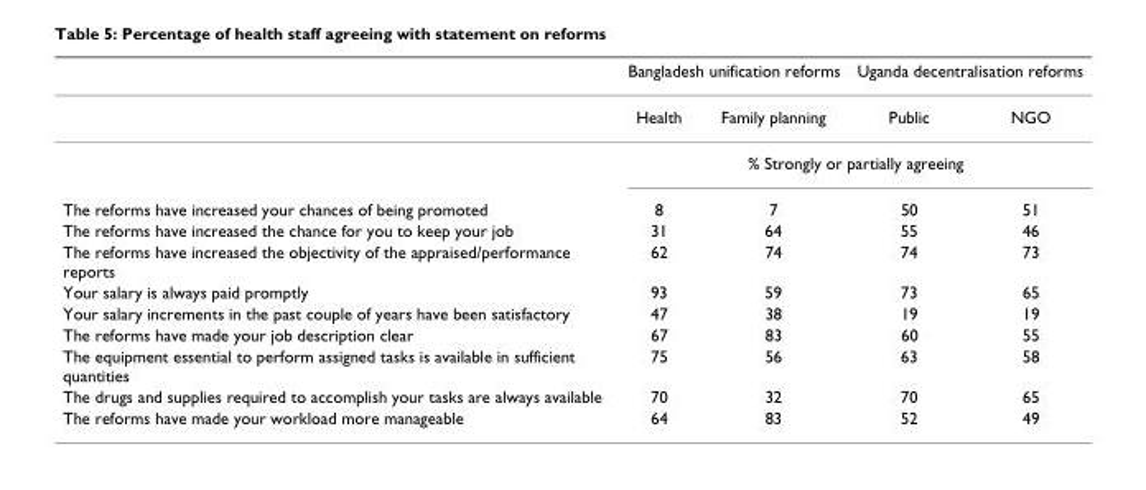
<table><thead><tr><td rowspan="2"></td><td colspan="2">Bangladesh unification reforms</td><td colspan="2">Uganda decentralisation reforms</td></tr><tr><td>Health</td><td>Family planning</td><td>Public</td><td>NGO</td></tr></thead><tbody><tr><td></td><td colspan="4">% Strongly or partially agreeing</td></tr><tr><td>The reforms have increased your chances of being promoted</td><td>8</td><td>7</td><td>50</td><td>51</td></tr><tr><td>The reforms have increased the chance for you to keep your job</td><td>31</td><td>64</td><td>55</td><td>46</td></tr><tr><td>The reforms have increased the objectivity of the appraised/performance reports</td><td>62</td><td>74</td><td>74</td><td>73</td></tr><tr><td>Your salary is always paid promptly</td><td>93</td><td>59</td><td>73</td><td>65</td></tr><tr><td>Your salary increments in the past couple of years have been satisfactory</td><td>47</td><td>38</td><td>19</td><td>19</td></tr><tr><td>The reforms have made your job description clear</td><td>67</td><td>83</td><td>60</td><td>55</td></tr><tr><td>The equipment essential to perform assigned tasks is available in sufficient quantities</td><td>75</td><td>56</td><td>63</td><td>58</td></tr><tr><td>The drugs and supplies required to accomplish your tasks are always available</td><td>70</td><td>32</td><td>70</td><td>65</td></tr><tr><td>The reforms have made your workload more manageable</td><td>64</td><td>83</td><td>52</td><td>49</td></tr></tbody></table>